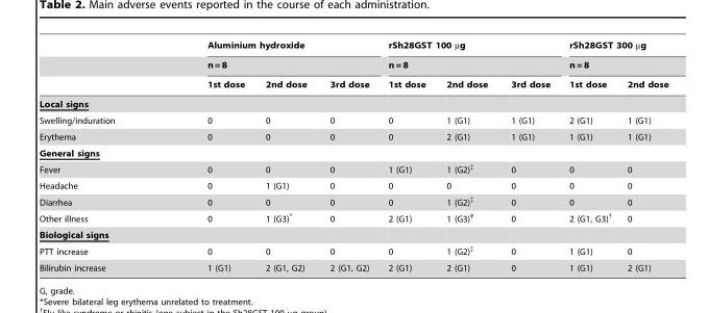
<table><thead><tr><td rowspan="3"></td><td rowspan="2" colspan="3">Aluminium hydroxide n = 8</td><td rowspan="2" colspan="3">rSh28GST 100 µg n = 8</td><td rowspan="2" colspan="2">rSh28GST 300 µg n = 8</td></tr><tr></tr><tr><td>1st dose</td><td>2nd dose</td><td>3rd dose</td><td>1st dose</td><td>2nd dose</td><td>3rd dose</td><td>1st dose</td><td>2nd dose</td></tr></thead><tbody><tr><td colspan="9">Local signs</td></tr><tr><td>Swelling/induration</td><td>0</td><td>0</td><td>0</td><td>0</td><td>1 (G1)</td><td>1 (G1)</td><td>2 (G1)</td><td>1 (G1)</td></tr><tr><td>Erythema</td><td>0</td><td>0</td><td>0</td><td>0</td><td>2 (G1)</td><td>1 (G1)</td><td>1 (G1)</td><td>1 (G1)</td></tr><tr><td colspan="9">General signs</td></tr><tr><td>Fever</td><td>0</td><td>0</td><td>0</td><td>1 (G1)</td><td>1 (G2)‡</td><td>0</td><td>0</td><td>0</td></tr><tr><td>Headache</td><td>0</td><td>1 (G1)</td><td>0</td><td>0</td><td>0</td><td>0</td><td>0</td><td>0</td></tr><tr><td>Diarrhea</td><td>0</td><td>0</td><td>0</td><td>0</td><td>1 (G2)‡</td><td>0</td><td>0</td><td>0</td></tr><tr><td>Other illness</td><td>0</td><td>1 (G3)*</td><td>0</td><td>2 (G1)</td><td>1 (G3)¥</td><td>0</td><td>2 (G1, G3)†</td><td>0</td></tr><tr><td colspan="9">Biological signs</td></tr><tr><td>PTT increase</td><td>0</td><td>0</td><td>0</td><td>0</td><td>1 (G2)‡</td><td>0</td><td>1 (G1)</td><td>0</td></tr><tr><td>Bilirubin increase</td><td>1 (G1)</td><td>2 (G1, G2)</td><td>2 (G1, G2)</td><td>2 (G1)</td><td>2 (G1)</td><td>0</td><td>1 (G1)</td><td>2 (G1)</td></tr></tbody></table>